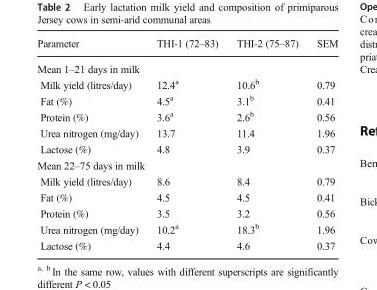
<table><thead><tr><td>Parameter</td><td>THI-1 (72–83)</td><td>THI-2 (75–87)</td><td>SEM</td></tr></thead><tbody><tr><td colspan="4">Mean 1–21 days in milk</td></tr><tr><td>Milk yield (litres/day)</td><td>12.4<sup>a</sup></td><td>10.6<sup>b</sup></td><td>0.79</td></tr><tr><td>Fat (%)</td><td>4.5<sup>a</sup></td><td>3.1<sup>b</sup></td><td>0.41</td></tr><tr><td>Protein (%)</td><td>3.6<sup>a</sup></td><td>2.6<sup>b</sup></td><td>0.56</td></tr><tr><td>Urea nitrogen (mg/day)</td><td>13.7</td><td>11.4</td><td>1.96</td></tr><tr><td>Lactose (%)</td><td>4.8</td><td>3.9</td><td>0.37</td></tr><tr><td colspan="4">Mean 22–75 days in milk</td></tr><tr><td>Milk yield (litres/day)</td><td>8.6</td><td>8.4</td><td>0.79</td></tr><tr><td>Fat (%)</td><td>4.5</td><td>4.5</td><td>0.41</td></tr><tr><td>Protein (%)</td><td>3.5</td><td>3.2</td><td>0.56</td></tr><tr><td>Urea nitrogen (mg/day)</td><td>10.2<sup>a</sup></td><td>18.3<sup>b</sup></td><td>1.96</td></tr><tr><td>Lactose (%)</td><td>4.4</td><td>4.6</td><td>0.37</td></tr></tbody></table>